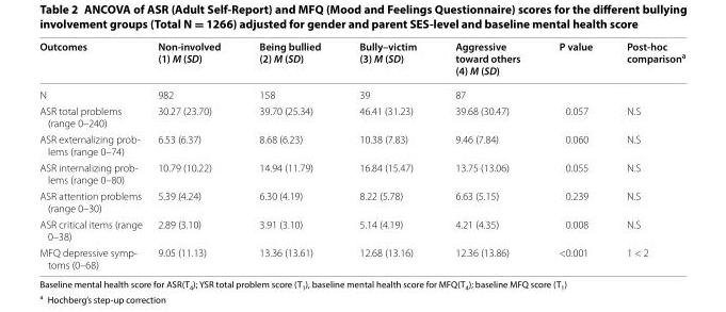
<table><thead><tr><td>Outcomes</td><td>Non-involved (1) M (SD)</td><td>Being bullied (2) M (SD)</td><td>Bully–victim (3) M (SD)</td><td>Aggressive toward others (4) M (SD)</td><td>P value</td><td>Post-hoc comparison<sup>a</sup></td></tr></thead><tbody><tr><td>N</td><td>982</td><td>158</td><td>39</td><td>87</td><td></td><td></td></tr><tr><td>ASR total problems (range 0–240)</td><td>30.27 (23.70)</td><td>39.70 (25.34)</td><td>46.41 (31.23)</td><td>39.68 (30.47)</td><td>0.057</td><td>N.S</td></tr><tr><td>ASR externalizing prob- lems (range 0–74)</td><td>6.53 (6.37)</td><td>8.68 (6.23)</td><td>10.38 (7.83)</td><td>9.46 (7.84)</td><td>0.060</td><td>N.S</td></tr><tr><td>ASR internalizing prob- lems (range 0–80)</td><td>10.79 (10.22)</td><td>14.94 (11.79)</td><td>16.84 (15.47)</td><td>13.75 (13.06)</td><td>0.055</td><td>N.S</td></tr><tr><td>ASR attention problems (range 0–30)</td><td>5.39 (4.24)</td><td>6.30 (4.19)</td><td>8.22 (5.78)</td><td>6.63 (5.15)</td><td>0.239</td><td>N.S</td></tr><tr><td>ASR critical items (range 0–38)</td><td>2.89 (3.10)</td><td>3.91 (3.10)</td><td>5.14 (4.19)</td><td>4.21 (4.35)</td><td>0.008</td><td>N.S</td></tr><tr><td>MFQ depressive symp- toms (0–68)</td><td>9.05 (11.13)</td><td>13.36 (13.61)</td><td>12.68 (13.16)</td><td>12.36 (13.86)</td><td>&lt;0.001</td><td>1 &lt; 2</td></tr></tbody></table>